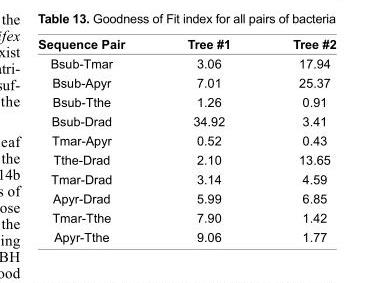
<table><thead><tr><td>Sequence Pair</td><td>Tree #1</td><td>Tree #2</td></tr></thead><tbody><tr><td>Bsub-Tmar</td><td>3.06</td><td>17.94</td></tr><tr><td>Bsub-Apyr</td><td>7.01</td><td>25.37</td></tr><tr><td>Bsub-Tthe</td><td>1.26</td><td>0.91</td></tr><tr><td>Bsub-Drad</td><td>34.92</td><td>3.41</td></tr><tr><td>Tmar-Apyr</td><td>0.52</td><td>0.43</td></tr><tr><td>Tthe-Drad</td><td>2.10</td><td>13.65</td></tr><tr><td>Tmar-Drad</td><td>3.14</td><td>4.59</td></tr><tr><td>Apyr-Drad</td><td>5.99</td><td>6.85</td></tr><tr><td>Tmar-Tthe</td><td>7.90</td><td>1.42</td></tr><tr><td>Apyr-Tthe</td><td>9.06</td><td>1.77</td></tr></tbody></table>